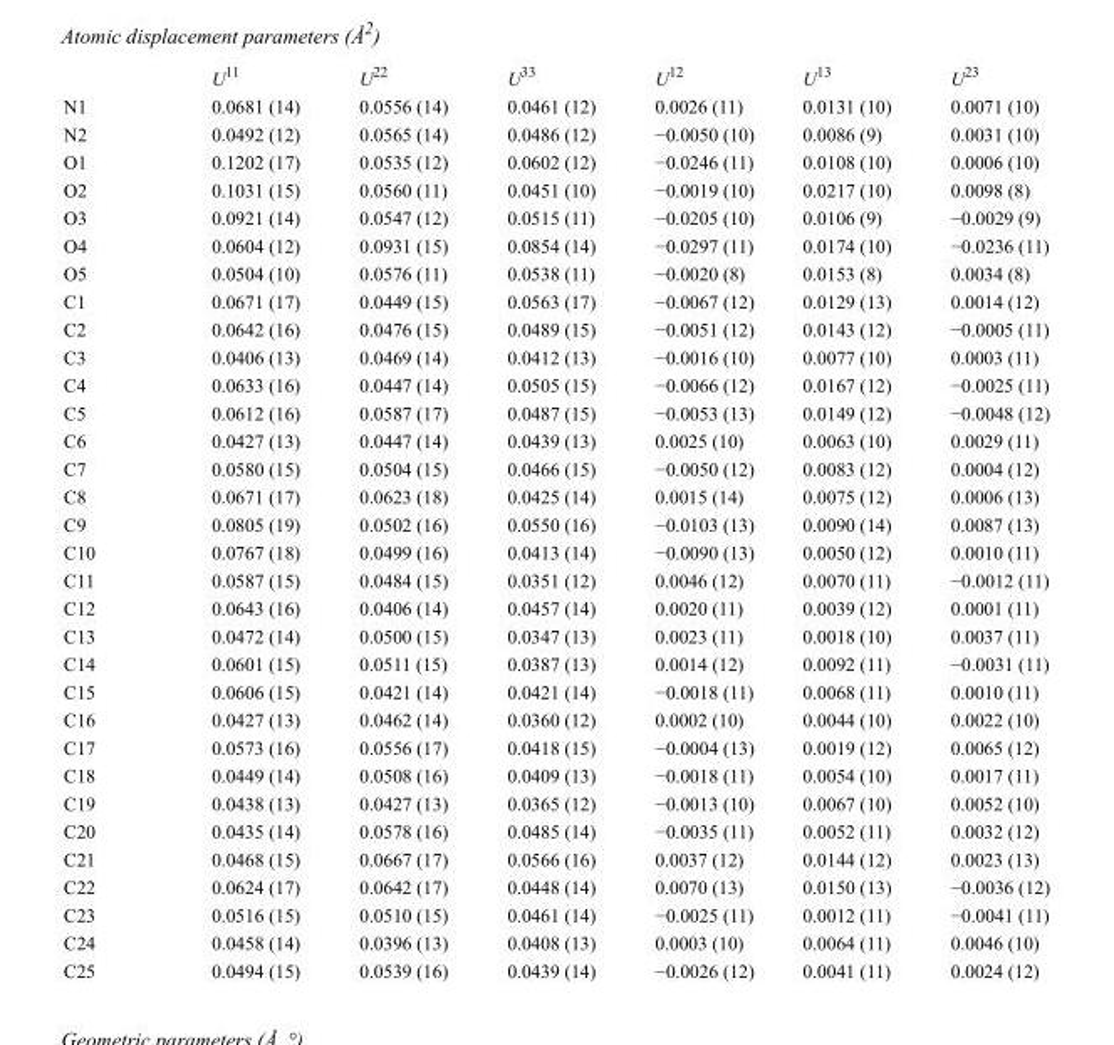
<table><thead><tr><td></td><td>U<sup>11</sup></td><td>U<sup>22</sup></td><td>U<sup>33</sup></td><td>U<sup>12</sup></td><td>U<sup>13</sup></td><td>U<sup>23</sup></td></tr></thead><tbody><tr><td>N1</td><td>0.0681 (14)</td><td>0.0556 (14)</td><td>0.0461 (12)</td><td>0.0026 (11)</td><td>0.0131 (10)</td><td>0.0071 (10)</td></tr><tr><td>N2</td><td>0.0492 (12)</td><td>0.0565 (14)</td><td>0.0486 (12)</td><td>−0.0050 (10)</td><td>0.0086 (9)</td><td>0.0031 (10)</td></tr><tr><td>O1</td><td>0.1202 (17)</td><td>0.0535 (12)</td><td>0.0602 (12)</td><td>−0.0246 (11)</td><td>0.0108 (10)</td><td>0.0006 (10)</td></tr><tr><td>O2</td><td>0.1031 (15)</td><td>0.0560 (11)</td><td>0.0451 (10)</td><td>−0.0019 (10)</td><td>0.0217 (10)</td><td>0.0098 (8)</td></tr><tr><td>O3</td><td>0.0921 (14)</td><td>0.0547 (12)</td><td>0.0515 (11)</td><td>−0.0205 (10)</td><td>0.0106 (9)</td><td>−0.0029 (9)</td></tr><tr><td>O4</td><td>0.0604 (12)</td><td>0.0931 (15)</td><td>0.0854 (14)</td><td>−0.0297 (11)</td><td>0.0174 (10)</td><td>−0.0236 (11)</td></tr><tr><td>O5</td><td>0.0504 (10)</td><td>0.0576 (11)</td><td>0.0538 (11)</td><td>−0.0020 (8)</td><td>0.0153 (8)</td><td>0.0034 (8)</td></tr><tr><td>C1</td><td>0.0671 (17)</td><td>0.0449 (15)</td><td>0.0563 (17)</td><td>−0.0067 (12)</td><td>0.0129 (13)</td><td>0.0014 (12)</td></tr><tr><td>C2</td><td>0.0642 (16)</td><td>0.0476 (15)</td><td>0.0489 (15)</td><td>−0.0051 (12)</td><td>0.0143 (12)</td><td>−0.0005 (11)</td></tr><tr><td>C3</td><td>0.0406 (13)</td><td>0.0469 (14)</td><td>0.0412 (13)</td><td>−0.0016 (10)</td><td>0.0077 (10)</td><td>0.0003 (11)</td></tr><tr><td>C4</td><td>0.0633 (16)</td><td>0.0447 (14)</td><td>0.0505 (15)</td><td>−0.0066 (12)</td><td>0.0167 (12)</td><td>−0.0025 (11)</td></tr><tr><td>C5</td><td>0.0612 (16)</td><td>0.0587 (17)</td><td>0.0487 (15)</td><td>−0.0053 (13)</td><td>0.0149 (12)</td><td>−0.0048 (12)</td></tr><tr><td>C6</td><td>0.0427 (13)</td><td>0.0447 (14)</td><td>0.0439 (13)</td><td>0.0025 (10)</td><td>0.0063 (10)</td><td>0.0029 (11)</td></tr><tr><td>C7</td><td>0.0580 (15)</td><td>0.0504 (15)</td><td>0.0466 (15)</td><td>−0.0050 (12)</td><td>0.0083 (12)</td><td>0.0004 (12)</td></tr><tr><td>C8</td><td>0.0671 (17)</td><td>0.0623 (18)</td><td>0.0425 (14)</td><td>0.0015 (14)</td><td>0.0075 (12)</td><td>0.0006 (13)</td></tr><tr><td>C9</td><td>0.0805 (19)</td><td>0.0502 (16)</td><td>0.0550 (16)</td><td>−0.0103 (13)</td><td>0.0090 (14)</td><td>0.0087 (13)</td></tr><tr><td>C10</td><td>0.0767 (18)</td><td>0.0499 (16)</td><td>0.0413 (14)</td><td>−0.0090 (13)</td><td>0.0050 (12)</td><td>0.0010 (11)</td></tr><tr><td>C11</td><td>0.0587 (15)</td><td>0.0484 (15)</td><td>0.0351 (12)</td><td>0.0046 (12)</td><td>0.0070 (11)</td><td>−0.0012 (11)</td></tr><tr><td>C12</td><td>0.0643 (16)</td><td>0.0406 (14)</td><td>0.0457 (14)</td><td>0.0020 (11)</td><td>0.0039 (12)</td><td>0.0001 (11)</td></tr><tr><td>C13</td><td>0.0472 (14)</td><td>0.0500 (15)</td><td>0.0347 (13)</td><td>0.0023 (11)</td><td>0.0018 (10)</td><td>0.0037 (11)</td></tr><tr><td>C14</td><td>0.0601 (15)</td><td>0.0511 (15)</td><td>0.0387 (13)</td><td>0.0014 (12)</td><td>0.0092 (11)</td><td>−0.0031 (11)</td></tr><tr><td>C15</td><td>0.0606 (15)</td><td>0.0421 (14)</td><td>0.0421 (14)</td><td>−0.0018 (11)</td><td>0.0068 (11)</td><td>0.0010 (11)</td></tr><tr><td>C16</td><td>0.0427 (13)</td><td>0.0462 (14)</td><td>0.0360 (12)</td><td>0.0002 (10)</td><td>0.0044 (10)</td><td>0.0022 (10)</td></tr><tr><td>C17</td><td>0.0573 (16)</td><td>0.0556 (17)</td><td>0.0418 (15)</td><td>−0.0004 (13)</td><td>0.0019 (12)</td><td>0.0065 (12)</td></tr><tr><td>C18</td><td>0.0449 (14)</td><td>0.0508 (16)</td><td>0.0409 (13)</td><td>−0.0018 (11)</td><td>0.0054 (10)</td><td>0.0017 (11)</td></tr><tr><td>C19</td><td>0.0438 (13)</td><td>0.0427 (13)</td><td>0.0365 (12)</td><td>−0.0013 (10)</td><td>0.0067 (10)</td><td>0.0052 (10)</td></tr><tr><td>C20</td><td>0.0435 (14)</td><td>0.0578 (16)</td><td>0.0485 (14)</td><td>−0.0035 (11)</td><td>0.0052 (11)</td><td>0.0032 (12)</td></tr><tr><td>C21</td><td>0.0468 (15)</td><td>0.0667 (17)</td><td>0.0566 (16)</td><td>0.0037 (12)</td><td>0.0144 (12)</td><td>0.0023 (13)</td></tr><tr><td>C22</td><td>0.0624 (17)</td><td>0.0642 (17)</td><td>0.0448 (14)</td><td>0.0070 (13)</td><td>0.0150 (13)</td><td>−0.0036 (12)</td></tr><tr><td>C23</td><td>0.0516 (15)</td><td>0.0510 (15)</td><td>0.0461 (14)</td><td>−0.0025 (11)</td><td>0.0012 (11)</td><td>−0.0041 (11)</td></tr><tr><td>C24</td><td>0.0458 (14)</td><td>0.0396 (13)</td><td>0.0408 (13)</td><td>0.0003 (10)</td><td>0.0064 (11)</td><td>0.0046 (10)</td></tr><tr><td>C25</td><td>0.0494 (15)</td><td>0.0539 (16)</td><td>0.0439 (14)</td><td>−0.0026 (12)</td><td>0.0041 (11)</td><td>0.0024 (12)</td></tr></tbody></table>